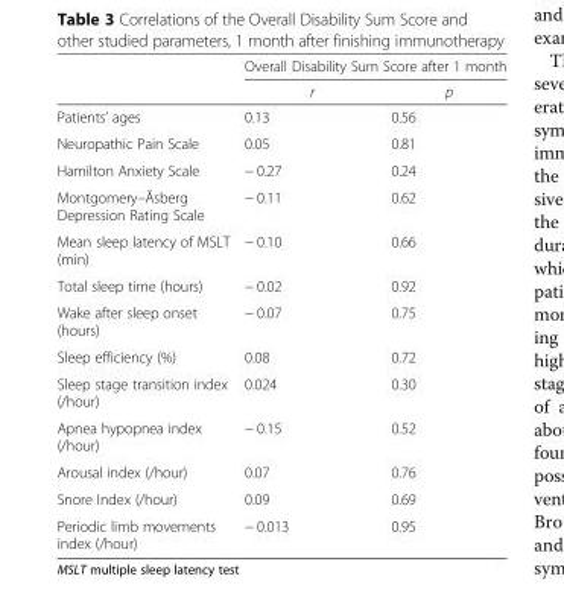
<table><thead><tr><td rowspan="2"></td><td colspan="2">Overall Disability Sum Score after 1 month</td></tr><tr><td>r</td><td>p</td></tr></thead><tbody><tr><td>Patients’ ages</td><td>0.13</td><td>0.56</td></tr><tr><td>Neuropathic Pain Scale</td><td>0.05</td><td>0.81</td></tr><tr><td>Hamilton Anxiety Scale</td><td>− 0.27</td><td>0.24</td></tr><tr><td>Montgomery–Åsberg Depression Rating Scale</td><td>− 0.11</td><td>0.62</td></tr><tr><td>Mean sleep latency of MSLT (min)</td><td>− 0.10</td><td>0.66</td></tr><tr><td>Total sleep time (hours)</td><td>− 0.02</td><td>0.92</td></tr><tr><td>Wake after sleep onset (hours)</td><td>− 0.07</td><td>0.75</td></tr><tr><td>Sleep efficiency (%)</td><td>0.08</td><td>0.72</td></tr><tr><td>Sleep stage transition index (/hour)</td><td>0.024</td><td>0.30</td></tr><tr><td>Apnea hypopnea index (/hour)</td><td>− 0.15</td><td>0.52</td></tr><tr><td>Arousal index (/hour)</td><td>0.07</td><td>0.76</td></tr><tr><td>Snore Index (/hour)</td><td>0.09</td><td>0.69</td></tr><tr><td>Periodic limb movements index (/hour)</td><td>− 0.013</td><td>0.95</td></tr></tbody></table>